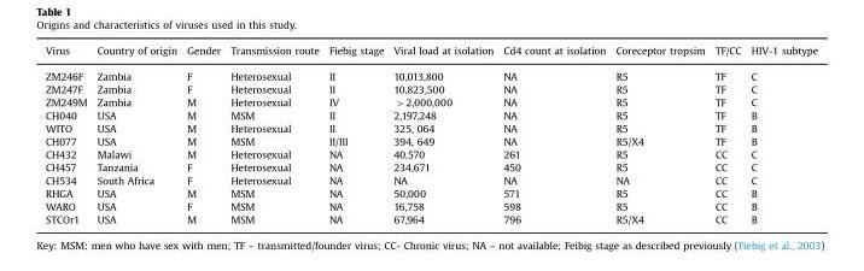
<table><thead><tr><td>Virus</td><td>Country of origin</td><td>Gender</td><td>Transmission route</td><td>Fiebig stage</td><td>Viral load at isolation</td><td>Cd4 count at isolation</td><td>Coreceptor tropsim</td><td>TF/CC</td><td>HIV-1 subtype</td></tr></thead><tbody><tr><td>ZM246F</td><td>Zambia</td><td>F</td><td>Heterosexual</td><td>II</td><td>10,013,800</td><td>NA</td><td>R5</td><td>TF</td><td>C</td></tr><tr><td>ZM247F</td><td>Zambia</td><td>F</td><td>Heterosexual</td><td>II</td><td>10,823,500</td><td>NA</td><td>R5</td><td>TF</td><td>C</td></tr><tr><td>ZM249M</td><td>Zambia</td><td>M</td><td>Heterosexual</td><td>IV</td><td>&gt;2,000,000</td><td>NA</td><td>R5</td><td>TF</td><td>C</td></tr><tr><td>CH040</td><td>USA</td><td>M</td><td>MSM</td><td>II</td><td>2,197,248</td><td>NA</td><td>R5</td><td>TF</td><td>B</td></tr><tr><td>WITO</td><td>USA</td><td>M</td><td>Heterosexual</td><td>II</td><td>325, 064</td><td>NA</td><td>R5</td><td>TF</td><td>B</td></tr><tr><td>CH077</td><td>USA</td><td>M</td><td>MSM</td><td>II/III</td><td>394, 649</td><td>NA</td><td>R5/X4</td><td>TF</td><td>B</td></tr><tr><td>CH432</td><td>Malawi</td><td>M</td><td>Heterosexual</td><td>NA</td><td>40,570</td><td>261</td><td>R5</td><td>CC</td><td>C</td></tr><tr><td>CH457</td><td>Tanzania</td><td>F</td><td>Heterosexual</td><td>NA</td><td>234,671</td><td>450</td><td>R5</td><td>CC</td><td>C</td></tr><tr><td>CH534</td><td>South Africa</td><td>F</td><td>Heterosexual</td><td>NA</td><td>NA</td><td>NA</td><td>NA</td><td>CC</td><td>C</td></tr><tr><td>RHGA</td><td>USA</td><td>M</td><td>MSM</td><td>NA</td><td>50,000</td><td>571</td><td>R5</td><td>CC</td><td>B</td></tr><tr><td>WARO</td><td>USA</td><td>F</td><td>MSM</td><td>NA</td><td>16,758</td><td>598</td><td>R5</td><td>CC</td><td>B</td></tr><tr><td>STCOr1</td><td>USA</td><td>M</td><td>MSM</td><td>NA</td><td>67,964</td><td>796</td><td>R5/X4</td><td>CC</td><td>B</td></tr></tbody></table>